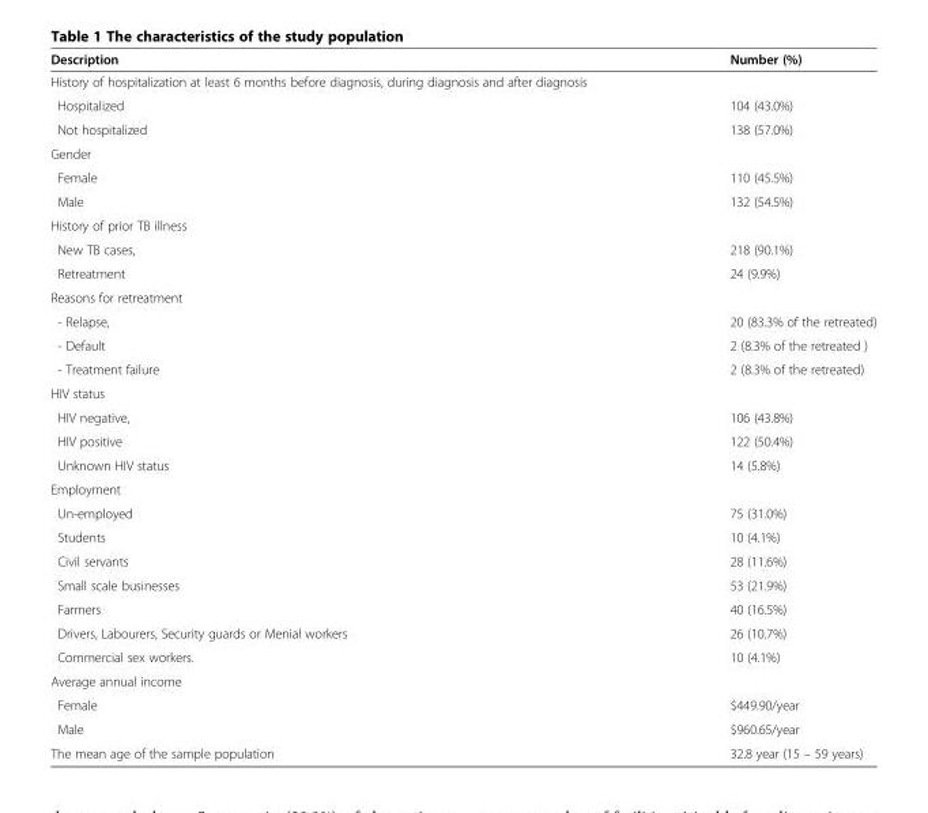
<table><thead><tr><td>Description</td><td>Number (%)</td></tr></thead><tbody><tr><td colspan="2">History of hospitalization at least 6 months before diagnosis, during diagnosis and after diagnosis</td></tr><tr><td>Hospitalized</td><td>104 (43.0%)</td></tr><tr><td>Not hospitalized</td><td>138 (57.0%)</td></tr><tr><td colspan="2">Gender</td></tr><tr><td>Female</td><td>110 (45.5%)</td></tr><tr><td>Male</td><td>132 (54.5%)</td></tr><tr><td colspan="2">History of prior TB illness</td></tr><tr><td>New TB cases,</td><td>218 (90.1%)</td></tr><tr><td>Retreatment</td><td>24 (9.9%)</td></tr><tr><td colspan="2">Reasons for retreatment</td></tr><tr><td>- Relapse,</td><td>20 (83.3% of the retreated)</td></tr><tr><td>- Default</td><td>2 (8.3% of the retreated )</td></tr><tr><td>- Treatment failure</td><td>2 (8.3% of the retreated)</td></tr><tr><td colspan="2">HIV status</td></tr><tr><td>HIV negative,</td><td>106 (43.8%)</td></tr><tr><td>HIV positive</td><td>122 (50.4%)</td></tr><tr><td>Unknown HIV status</td><td>14 (5.8%)</td></tr><tr><td colspan="2">Employment</td></tr><tr><td>Un-employed</td><td>75 (31.0%)</td></tr><tr><td>Students</td><td>10 (4.1%)</td></tr><tr><td>Civil servants</td><td>28 (11.6%)</td></tr><tr><td>Small scale businesses</td><td>53 (21.9%)</td></tr><tr><td>Farmers</td><td>40 (16.5%)</td></tr><tr><td>Drivers, Labourers, Security guards or Menial workers</td><td>26 (10.7%)</td></tr><tr><td>Commercial sex workers.</td><td>10 (4.1%)</td></tr><tr><td colspan="2">Average annual income</td></tr><tr><td>Female</td><td>$449.90/year</td></tr><tr><td>Male</td><td>$960.65/year</td></tr><tr><td>The mean age of the sample population</td><td>32.8 year (15 – 59 years)</td></tr></tbody></table>